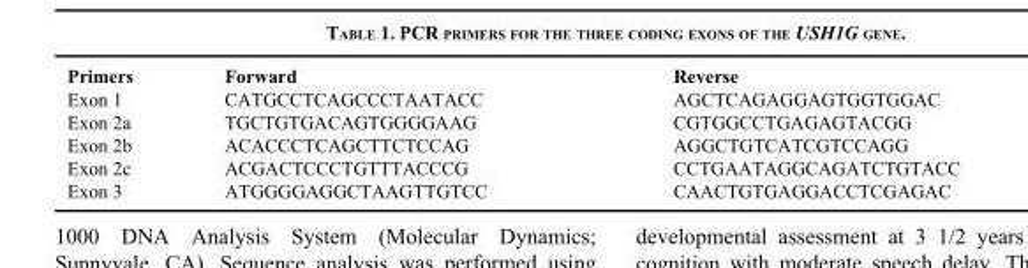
<table><thead><tr><td>Primers</td><td>Forward</td><td>Reverse</td></tr></thead><tbody><tr><td>Exon 1</td><td>CATGCCTCAGCCCTAATACC</td><td>AGCTCAGAGGAGTGGTGGAC</td></tr><tr><td>Exon 2a</td><td>TGCTGTGACAGTGGGGAAG</td><td>CGTGGCCTGAGAGTACGG</td></tr><tr><td>Exon 2b</td><td>ACACCCTCAGCTTCTCCAG</td><td>AGGCTGTCATCGTCCAGG</td></tr><tr><td>Exon 2c</td><td>ACGACTCCCTGTTTACCCG</td><td>CCTGAATAGGCAGATCTGTACC</td></tr><tr><td>Exon 3</td><td>ATGGGGAGGCTAAGTTGTCC</td><td>CAACTGTGAGGACCTCGAGAC</td></tr></tbody></table>